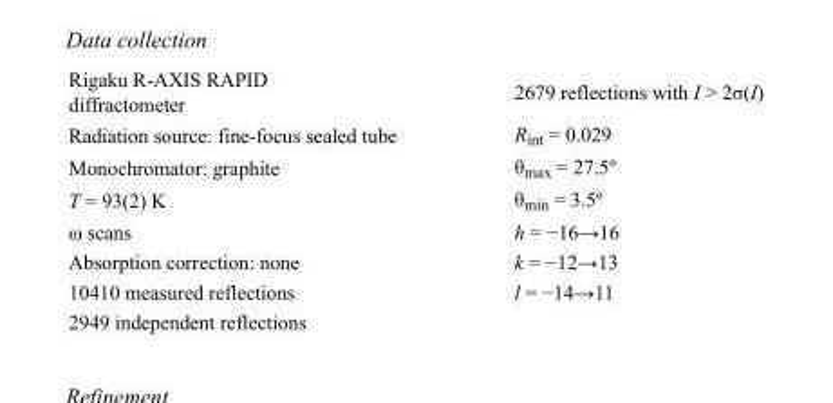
<table><tbody><tr><td>Rigaku R-AXIS RAPID diffractometer</td><td>2679 reflections with I &gt; 2σ(I)</td></tr><tr><td>Radiation source: fine-focus sealed tube</td><td>R<sub>int</sub> = 0.029</td></tr><tr><td>Monochromator: graphite</td><td>θ<sub>max</sub> = 27.5º</td></tr><tr><td>T = 93(2) K</td><td>θ<sub>min</sub> = 3.5º</td></tr><tr><td>ω scans</td><td>h = −16→16</td></tr><tr><td>Absorption correction: none</td><td>k = −12→13</td></tr><tr><td>10410 measured reflections</td><td>l = −14→11</td></tr><tr><td>2949 independent reflections</td><td></td></tr></tbody></table>